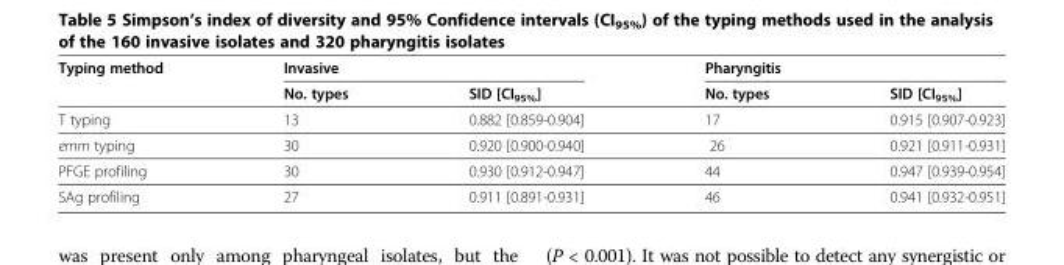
<table><thead><tr><td rowspan="2">Typing method</td><td colspan="2">Invasive</td><td colspan="2">Pharyngitis</td></tr><tr><td>No. types</td><td>SID [CI<sub>95%</sub>]</td><td>No. types</td><td>SID [CI<sub>95%</sub>]</td></tr></thead><tbody><tr><td>T typing</td><td>13</td><td>0.882 [0.859-0.904]</td><td>17</td><td>0.915 [0.907-0.923]</td></tr><tr><td>emm typing</td><td>30</td><td>0.920 [0.900-0.940]</td><td>26</td><td>0.921 [0.911-0.931]</td></tr><tr><td>PFGE profiling</td><td>30</td><td>0.930 [0.912-0.947]</td><td>44</td><td>0.947 [0.939-0.954]</td></tr><tr><td>SAg profiling</td><td>27</td><td>0.911 [0.891-0.931]</td><td>46</td><td>0.941 [0.932-0.951]</td></tr></tbody></table>